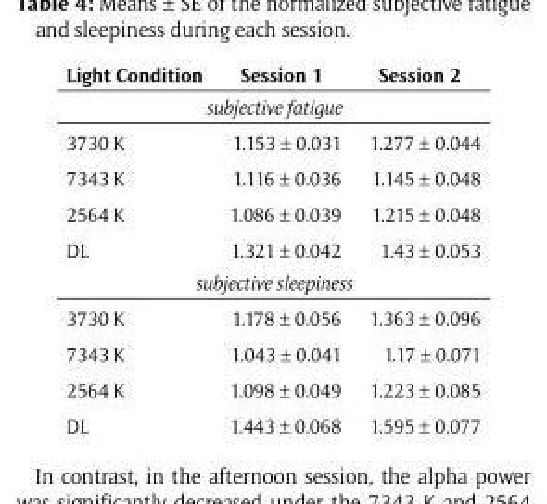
<table><thead><tr><td>Light Condition</td><td>Session 1</td><td>Session 2</td></tr></thead><tbody><tr><td colspan="3">subjective fatigue</td></tr><tr><td>3730 K</td><td>1.153 ± 0.031</td><td>1.277 ± 0.044</td></tr><tr><td>7343 K</td><td>1.116 ± 0.036</td><td>1.145 ± 0.048</td></tr><tr><td>2564 K</td><td>1.086 ± 0.039</td><td>1.215 ± 0.048</td></tr><tr><td>DL</td><td>1.321 ± 0.042</td><td>1.43 ± 0.053</td></tr><tr><td colspan="3">subjective sleepiness</td></tr><tr><td>3730 K</td><td>1.178 ± 0.056</td><td>1.363 ± 0.096</td></tr><tr><td>7343 K</td><td>1.043 ± 0.041</td><td>1.17 ± 0.071</td></tr><tr><td>2564 K</td><td>1.098 ± 0.049</td><td>1.223 ± 0.085</td></tr><tr><td>DL</td><td>1.443 ± 0.068</td><td>1.595 ± 0.077</td></tr></tbody></table>